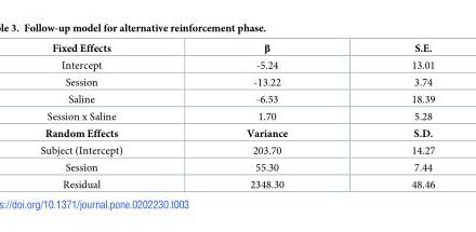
<table><tbody><tr><td>Fixed Effects</td><td>β</td><td>S.E.</td></tr><tr><td>Intercept</td><td>-5.24</td><td>13.01</td></tr><tr><td>Session</td><td>-13.22</td><td>3.74</td></tr><tr><td>Saline</td><td>-6.53</td><td>18.39</td></tr><tr><td>Session x Saline</td><td>1.70</td><td>5.28</td></tr><tr><td>Random Effects</td><td>Variance</td><td>S.D.</td></tr><tr><td>Subject (Intercept)</td><td>203.70</td><td>14.27</td></tr><tr><td>Session</td><td>55.30</td><td>7.44</td></tr><tr><td>Residual</td><td>2348.30</td><td>48.46</td></tr></tbody></table>